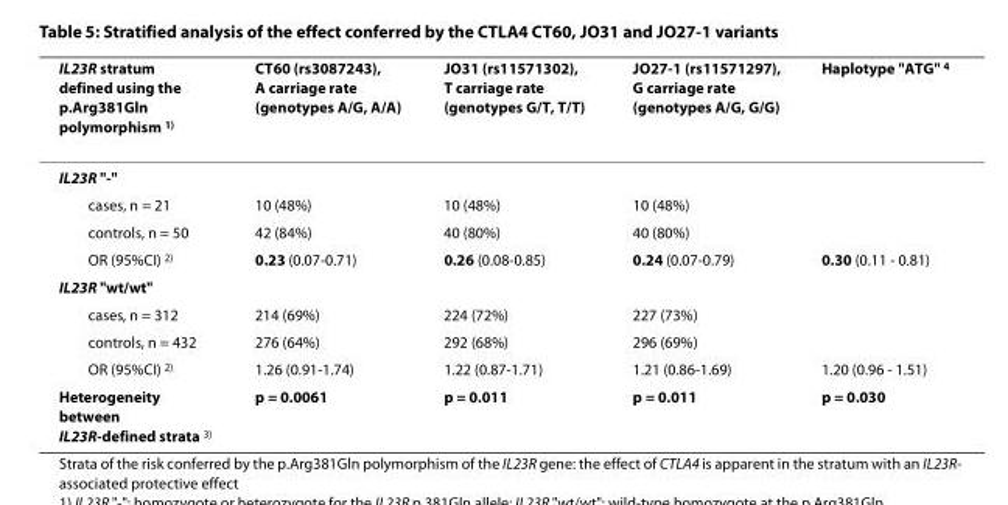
<table><thead><tr><td>IL23R stratum defined using the p.Arg381Gln polymorphism <sup>1)</sup></td><td>CT60 (rs3087243), A carriage rate (genotypes A/G, A/A)</td><td>JO31 (rs11571302), T carriage rate (genotypes G/T, T/T)</td><td>JO27-1 (rs11571297), G carriage rate (genotypes A/G, G/G)</td><td>Haplotype &quot;ATG&quot; <sup>4</sup></td></tr></thead><tbody><tr><td colspan="5">IL23R &quot;-&quot;</td></tr><tr><td>cases, n = 21</td><td>10 (48%)</td><td>10 (48%)</td><td>10 (48%)</td><td></td></tr><tr><td>controls, n = 50</td><td>42 (84%)</td><td>40 (80%)</td><td>40 (80%)</td><td></td></tr><tr><td>OR (95%CI) <sup>2)</sup></td><td>0.23 (0.07-0.71)</td><td>0.26 (0.08-0.85)</td><td>0.24 (0.07-0.79)</td><td>0.30 (0.11 - 0.81)</td></tr><tr><td colspan="5">IL23R &quot;wt/wt&quot;</td></tr><tr><td>cases, n = 312</td><td>214 (69%)</td><td>224 (72%)</td><td>227 (73%)</td><td></td></tr><tr><td>controls, n = 432</td><td>276 (64%)</td><td>292 (68%)</td><td>296 (69%)</td><td></td></tr><tr><td>OR (95%CI) <sup>2)</sup></td><td>1.26 (0.91-1.74)</td><td>1.22 (0.87-1.71)</td><td>1.21 (0.86-1.69)</td><td>1.20 (0.96 - 1.51)</td></tr><tr><td>Heterogeneity between IL23R-defined strata <sup>3)</sup></td><td>p = 0.0061</td><td>p = 0.011</td><td>p = 0.011</td><td>p = 0.030</td></tr></tbody></table>